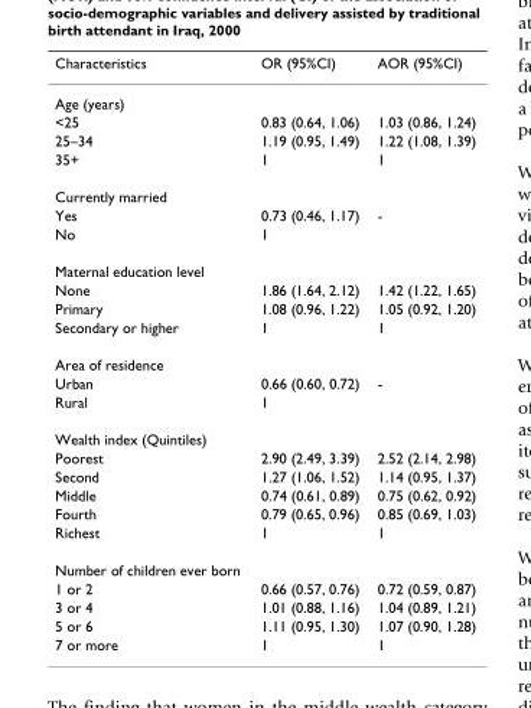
<table><thead><tr><td>Characteristics</td><td>OR (95%CI)</td><td>AOR (95%CI)</td></tr></thead><tbody><tr><td colspan="3">Age (years)</td></tr><tr><td>&lt;25</td><td>0.83 (0.64, 1.06)</td><td>1.03 (0.86, 1.24)</td></tr><tr><td>25–34</td><td>1.19 (0.95, 1.49)</td><td>1.22 (1.08, 1.39)</td></tr><tr><td>35+</td><td>1</td><td>1</td></tr><tr><td colspan="3">Currently married</td></tr><tr><td>Yes</td><td>0.73 (0.46, 1.17)</td><td>-</td></tr><tr><td>No</td><td>1</td><td></td></tr><tr><td colspan="3">Maternal education level</td></tr><tr><td>None</td><td>1.86 (1.64, 2.12)</td><td>1.42 (1.22, 1.65)</td></tr><tr><td>Primary</td><td>1.08 (0.96, 1.22)</td><td>1.05 (0.92, 1.20)</td></tr><tr><td>Secondary or higher</td><td>1</td><td>1</td></tr><tr><td colspan="3">Area of residence</td></tr><tr><td>Urban</td><td>0.66 (0.60, 0.72)</td><td>-</td></tr><tr><td>Rural</td><td>1</td><td></td></tr><tr><td colspan="3">Wealth index (Quintiles)</td></tr><tr><td>Poorest</td><td>2.90 (2.49, 3.39)</td><td>2.52 (2.14, 2.98)</td></tr><tr><td>Second</td><td>1.27 (1.06, 1.52)</td><td>1.14 (0.95, 1.37)</td></tr><tr><td>Middle</td><td>0.74 (0.61, 0.89)</td><td>0.75 (0.62, 0.92)</td></tr><tr><td>Fourth</td><td>0.79 (0.65, 0.96)</td><td>0.85 (0.69, 1.03)</td></tr><tr><td>Richest</td><td>1</td><td>1</td></tr><tr><td colspan="3">Number of children ever born</td></tr><tr><td>1 or 2</td><td>0.66 (0.57, 0.76)</td><td>0.72 (0.59, 0.87)</td></tr><tr><td>3 or 4</td><td>1.01 (0.88, 1.16)</td><td>1.04 (0.89, 1.21)</td></tr><tr><td>5 or 6</td><td>1.11 (0.95, 1.30)</td><td>1.07 (0.90, 1.28)</td></tr><tr><td>7 or more</td><td>1</td><td>1</td></tr></tbody></table>